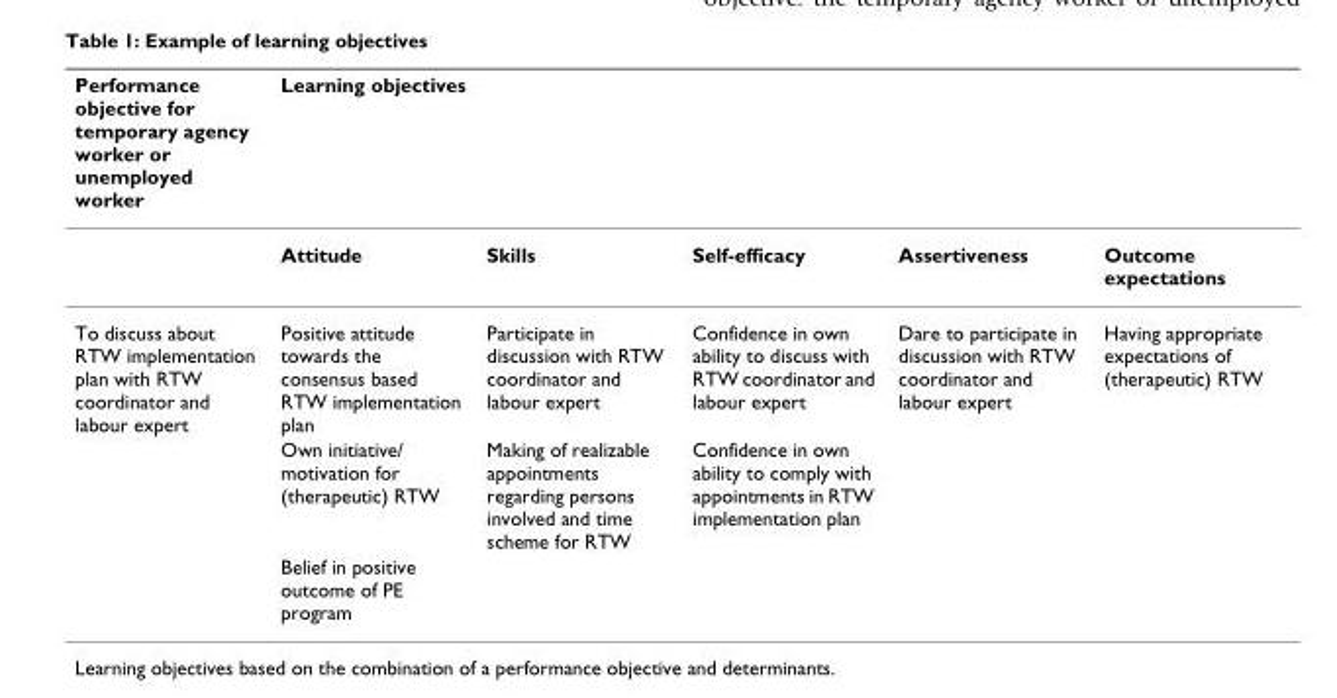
<table><thead><tr><td rowspan="2">Performance objective for temporary agency worker or unemployed worker</td><td colspan="5">Learning objectives</td></tr><tr><td>Attitude</td><td>Skills</td><td>Self-efficacy</td><td>Assertiveness</td><td>Outcome expectations</td></tr></thead><tbody><tr><td rowspan="3">To discuss about RTW implementation plan with RTW coordinator and labour expert</td><td>Positive attitude towards the consensus based RTW implementation plan</td><td>Participate in discussion with RTW coordinator and labour expert</td><td>Confidence in own ability to discuss with RTW coordinator and labour expert</td><td>Dare to participate in discussion with RTW coordinator and labour expert</td><td>Having appropriate expectations of (therapeutic) RTW</td></tr><tr><td>Own initiative/ motivation for (therapeutic) RTW</td><td>Making of realizable appointments regarding persons involved and time scheme for RTW</td><td>Confidence in own ability to comply with appointments in RTW implementation plan</td><td></td><td></td></tr><tr><td>Belief in positive outcome of PE program</td><td></td><td></td><td></td><td></td></tr></tbody></table>